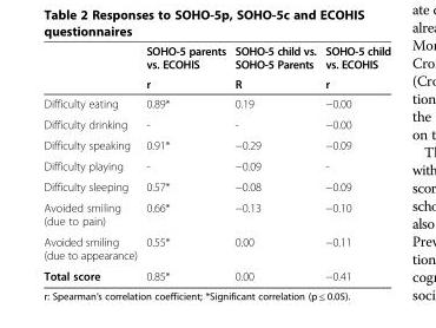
<table><thead><tr><td rowspan="2"></td><td rowspan="2">SOHO-5 parents vs. ECOHIS r</td><td rowspan="2">SOHO-5 child vs. SOHO-5 Parents R</td><td rowspan="2">SOHO-5 child vs. ECOHIS r</td></tr><tr></tr></thead><tbody><tr><td>Difficulty eating</td><td>0.89*</td><td>0.19</td><td>−0.00</td></tr><tr><td>Difficulty drinking</td><td>-</td><td>-</td><td>−0.00</td></tr><tr><td>Difficulty speaking</td><td>0.91*</td><td>−0.29</td><td>−0.09</td></tr><tr><td>Difficulty playing</td><td>-</td><td>−0.09</td><td>-</td></tr><tr><td>Difficulty sleeping</td><td>0.57*</td><td>−0.08</td><td>−0.09</td></tr><tr><td>Avoided smiling (due to pain)</td><td>0.66*</td><td>−0.13</td><td>−0.10</td></tr><tr><td>Avoided smiling (due to appearance)</td><td>0.55*</td><td>0.00</td><td>−0.11</td></tr><tr><td>Total score</td><td>0.85*</td><td>0.00</td><td>−0.41</td></tr></tbody></table>